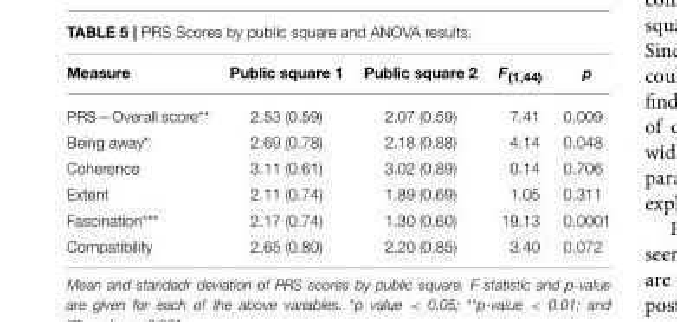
<table><thead><tr><td>Measure</td><td>Public square 1</td><td>Public square 2</td><td>F<sub>(1,44)</sub></td><td>p</td></tr></thead><tbody><tr><td>PRS—Overall score**</td><td>2.53 (0.59)</td><td>2.07 (0.59)</td><td>7.41</td><td>0.009</td></tr><tr><td>Being away*</td><td>2.69 (0.78)</td><td>2.18 (0.88)</td><td>4.14</td><td>0.048</td></tr><tr><td>Coherence</td><td>3.11 (0.61)</td><td>3.02 (0.89)</td><td>0.14</td><td>0.706</td></tr><tr><td>Extent</td><td>2.11 (0.74)</td><td>1.89 (0.69)</td><td>1.05</td><td>0.311</td></tr><tr><td>Fascination***</td><td>2.17 (0.74)</td><td>1.30 (0.60)</td><td>19.13</td><td>0.0001</td></tr><tr><td>Compatibility</td><td>2.65 (0.80)</td><td>2.20 (0.85)</td><td>3.40</td><td>0.072</td></tr></tbody></table>